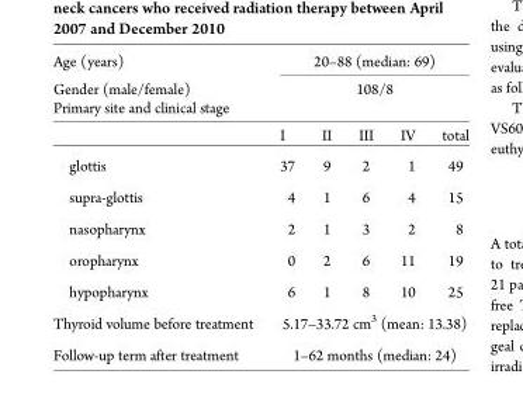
<table><thead><tr><td rowspan="2">Age (years) Gender (male/female)</td><td rowspan="2" colspan="5">20–88 (median: 69) 108/8</td></tr><tr></tr><tr><td colspan="6">Primary site and clinical stage</td></tr><tr><td></td><td>I</td><td>II</td><td>III</td><td>IV</td><td>total</td></tr></thead><tbody><tr><td>glottis</td><td>37</td><td>9</td><td>2</td><td>1</td><td>49</td></tr><tr><td>supra-glottis</td><td>4</td><td>1</td><td>6</td><td>4</td><td>15</td></tr><tr><td>nasopharynx</td><td>2</td><td>1</td><td>3</td><td>2</td><td>8</td></tr><tr><td>oropharynx</td><td>0</td><td>2</td><td>6</td><td>11</td><td>19</td></tr><tr><td>hypopharynx</td><td>6</td><td>1</td><td>8</td><td>10</td><td>25</td></tr><tr><td>Thyroid volume before treatment</td><td colspan="5">5.17–33.72 cm<sup>3</sup> (mean: 13.38)</td></tr><tr><td>Follow-up term after treatment</td><td colspan="5">1–62 months (median: 24)</td></tr></tbody></table>